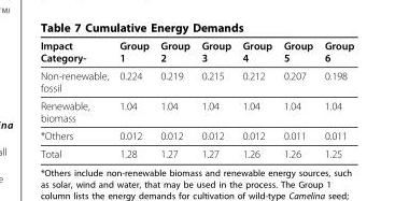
<table><thead><tr><td>Impact Category-</td><td>Group 1</td><td>Group 2</td><td>Group 3</td><td>Group 4</td><td>Group 5</td><td>Group 6</td></tr></thead><tbody><tr><td>Non-renewable, fossil</td><td>0.224</td><td>0.219</td><td>0.215</td><td>0.212</td><td>0.207</td><td>0.198</td></tr><tr><td>Renewable, biomass</td><td>1.04</td><td>1.04</td><td>1.04</td><td>1.04</td><td>1.04</td><td>1.04</td></tr><tr><td>*Others</td><td>0.012</td><td>0.012</td><td>0.012</td><td>0.012</td><td>0.011</td><td>0.011</td></tr><tr><td>Total</td><td>1.28</td><td>1.27</td><td>1.27</td><td>1.26</td><td>1.26</td><td>1.25</td></tr></tbody></table>